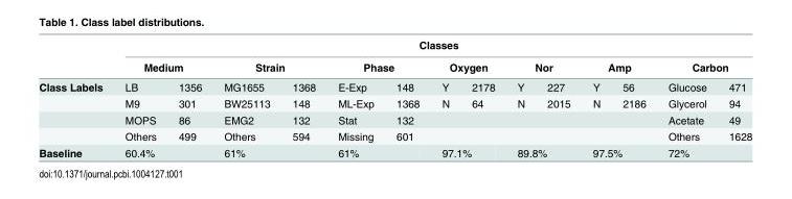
<table><thead><tr><td rowspan="3">Class Labels</td><td colspan="14">Classes</td></tr><tr><td colspan="2">Medium</td><td colspan="2">Strain</td><td colspan="2">Phase</td><td colspan="2">Oxygen</td><td colspan="2">Nor</td><td colspan="2">Amp</td><td colspan="2">Carbon</td></tr><tr><td>LB</td><td>1356</td><td>MG1655</td><td>1368</td><td>E-Exp</td><td>148</td><td>Y</td><td>2178</td><td>Y</td><td>227</td><td>Y</td><td>56</td><td>Glucose</td><td>471</td></tr></thead><tbody><tr><td></td><td>M9</td><td>301</td><td>BW25113</td><td>148</td><td>ML-Exp</td><td>1368</td><td>N</td><td>64</td><td>N</td><td>2015</td><td>N</td><td>2186</td><td>Glycerol</td><td>94</td></tr><tr><td></td><td>MOPS</td><td>86</td><td>EMG2</td><td>132</td><td>Stat</td><td>132</td><td></td><td></td><td></td><td></td><td></td><td></td><td>Acetate</td><td>49</td></tr><tr><td></td><td>Others</td><td>499</td><td>Others</td><td>594</td><td>Missing</td><td>601</td><td></td><td></td><td></td><td></td><td></td><td></td><td>Others</td><td>1628</td></tr><tr><td>Baseline</td><td colspan="2">60.4%</td><td colspan="2">61%</td><td colspan="2">61%</td><td colspan="2">97.1%</td><td colspan="2">89.8%</td><td colspan="2">97.5%</td><td colspan="2">72%</td></tr></tbody></table>